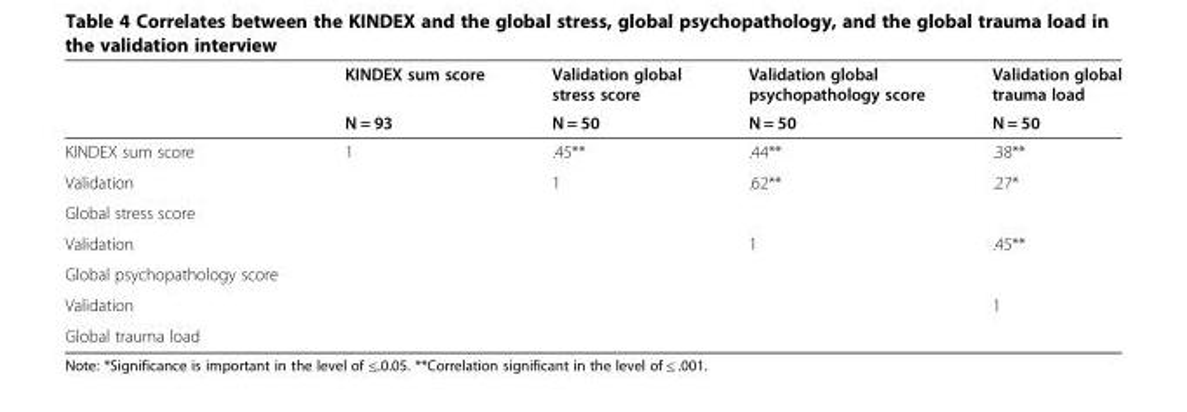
<table><thead><tr><td rowspan="2"></td><td rowspan="2">KINDEX sum score N = 93</td><td rowspan="2">Validation global stress score N = 50</td><td rowspan="2">Validation global psychopathology score N = 50</td><td rowspan="2">Validation global trauma load N = 50</td></tr><tr></tr></thead><tbody><tr><td>KINDEX sum score</td><td>1</td><td>.45**</td><td>.44**</td><td>.38**</td></tr><tr><td>Validation</td><td rowspan="2"></td><td rowspan="2">1</td><td rowspan="2">.62**</td><td rowspan="2">.27*</td></tr><tr><td>Global stress score</td></tr><tr><td>Validation</td><td rowspan="2"></td><td rowspan="2"></td><td rowspan="2">1</td><td rowspan="2">.45**</td></tr><tr><td>Global psychopathology score</td></tr><tr><td>Validation</td><td rowspan="2"></td><td rowspan="2"></td><td rowspan="2"></td><td rowspan="2">1</td></tr><tr><td>Global trauma load</td></tr></tbody></table>